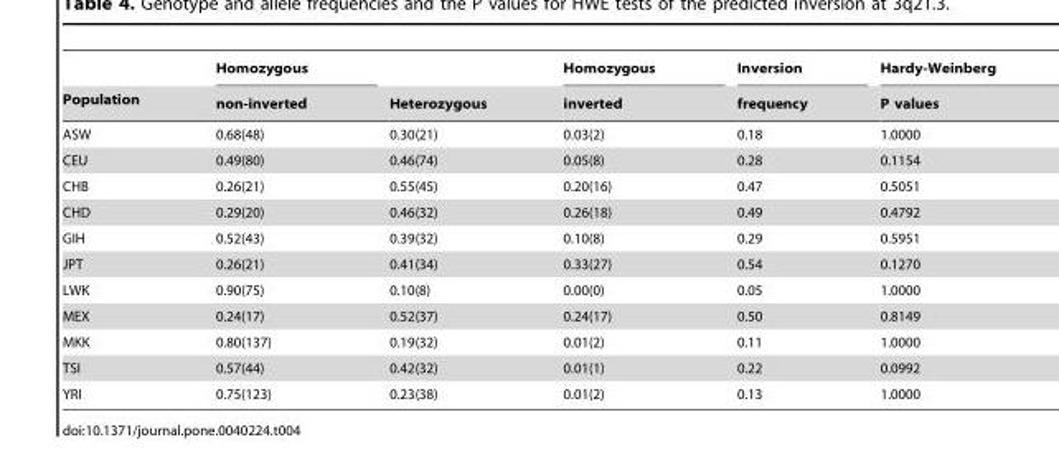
<table><thead><tr><td rowspan="2">Population</td><td rowspan="2">Homozygous non-inverted</td><td rowspan="2">Heterozygous</td><td rowspan="2">Homozygous inverted</td><td rowspan="2">Inversion frequency</td><td rowspan="2">Hardy-Weinberg P values</td></tr><tr></tr></thead><tbody><tr><td>ASW</td><td>0.68(48)</td><td>0.30(21)</td><td>0.03(2)</td><td>0.18</td><td>1.0000</td></tr><tr><td>CEU</td><td>0.49(80)</td><td>0.46(74)</td><td>0.05(8)</td><td>0.28</td><td>0.1154</td></tr><tr><td>CHB</td><td>0.26(21)</td><td>0.55(45)</td><td>0.20(16)</td><td>0.47</td><td>0.5051</td></tr><tr><td>CHD</td><td>0.29(20)</td><td>0.46(32)</td><td>0.26(18)</td><td>0.49</td><td>0.4792</td></tr><tr><td>GIH</td><td>0.52(43)</td><td>0.39(32)</td><td>0.10(8)</td><td>0.29</td><td>0.5951</td></tr><tr><td>JPT</td><td>0.26(21)</td><td>0.41(34)</td><td>0.33(27)</td><td>0.54</td><td>0.1270</td></tr><tr><td>LWK</td><td>0.90(75)</td><td>0.10(8)</td><td>0.00(0)</td><td>0.05</td><td>1.0000</td></tr><tr><td>MEX</td><td>0.24(17)</td><td>0.52(37)</td><td>0.24(17)</td><td>0.50</td><td>0.8149</td></tr><tr><td>MKK</td><td>0.80(137)</td><td>0.19(32)</td><td>0.01(2)</td><td>0.11</td><td>1.0000</td></tr><tr><td>TSI</td><td>0.57(44)</td><td>0.42(32)</td><td>0.01(1)</td><td>0.22</td><td>0.0992</td></tr><tr><td>YRI</td><td>0.75(123)</td><td>0.23(38)</td><td>0.01(2)</td><td>0.13</td><td>1.0000</td></tr></tbody></table>